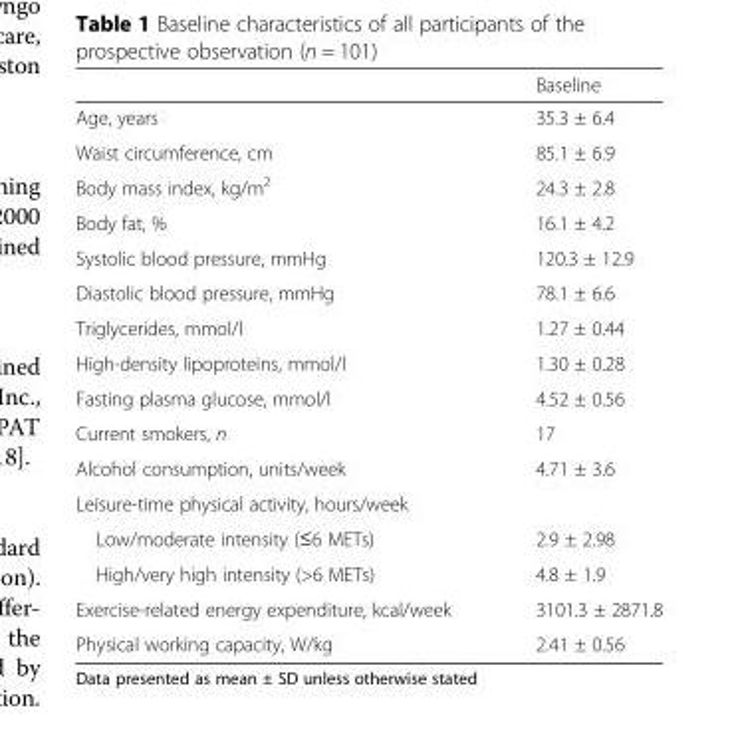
<table><thead><tr><td></td><td>Baseline</td></tr></thead><tbody><tr><td>Age, years</td><td>35.3 ± 6.4</td></tr><tr><td>Waist circumference, cm</td><td>85.1 ± 6.9</td></tr><tr><td>Body mass index, kg/m<sup>2</sup></td><td>24.3 ± 2.8</td></tr><tr><td>Body fat, %</td><td>16.1 ± 4.2</td></tr><tr><td>Systolic blood pressure, mmHg</td><td>120.3 ± 12.9</td></tr><tr><td>Diastolic blood pressure, mmHg</td><td>78.1 ± 6.6</td></tr><tr><td>Triglycerides, mmol/l</td><td>1.27 ± 0.44</td></tr><tr><td>High-density lipoproteins, mmol/l</td><td>1.30 ± 0.28</td></tr><tr><td>Fasting plasma glucose, mmol/l</td><td>4.52 ± 0.56</td></tr><tr><td>Current smokers, n</td><td>17</td></tr><tr><td>Alcohol consumption, units/week</td><td>4.71 ± 3.6</td></tr><tr><td colspan="2">Leisure-time physical activity, hours/week</td></tr><tr><td>Low/moderate intensity (≤6 METs)</td><td>2.9 ± 2.98</td></tr><tr><td>High/very high intensity (&gt;6 METs)</td><td>4.8 ± 1.9</td></tr><tr><td>Exercise-related energy expenditure, kcal/week</td><td>3101.3 ± 2871.8</td></tr><tr><td>Physical working capacity, W/kg</td><td>2.41 ± 0.56</td></tr></tbody></table>